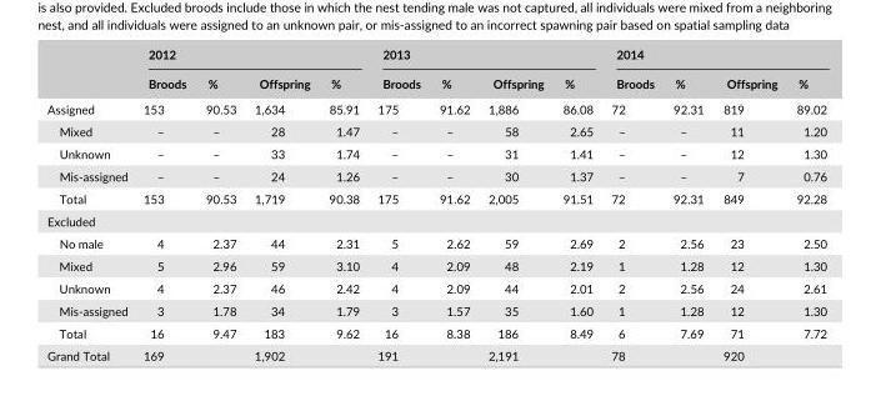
<table><thead><tr><td rowspan="2"></td><td colspan="4">2012</td><td colspan="4">2013</td><td colspan="4">2014</td></tr><tr><td>Broods</td><td>%</td><td>Offspring</td><td>%</td><td>Broods</td><td>%</td><td>Offspring</td><td>%</td><td>Broods</td><td>%</td><td>Offspring</td><td>%</td></tr></thead><tbody><tr><td>Assigned</td><td>153</td><td>90.53</td><td>1,634</td><td>85.91</td><td>175</td><td>91.62</td><td>1,886</td><td>86.08</td><td>72</td><td>92.31</td><td>819</td><td>89.02</td></tr><tr><td>Mixed</td><td>–</td><td>–</td><td>28</td><td>1.47</td><td>–</td><td>–</td><td>58</td><td>2.65</td><td>–</td><td>–</td><td>11</td><td>1.20</td></tr><tr><td>Unknown</td><td>–</td><td>–</td><td>33</td><td>1.74</td><td>–</td><td>–</td><td>31</td><td>1.41</td><td>–</td><td>–</td><td>12</td><td>1.30</td></tr><tr><td>Mis- assigned</td><td>–</td><td>–</td><td>24</td><td>1.26</td><td>–</td><td>–</td><td>30</td><td>1.37</td><td>–</td><td>–</td><td>7</td><td>0.76</td></tr><tr><td>Total</td><td>153</td><td>90.53</td><td>1,719</td><td>90.38</td><td>175</td><td>91.62</td><td>2,005</td><td>91.51</td><td>72</td><td>92.31</td><td>849</td><td>92.28</td></tr><tr><td colspan="13">Excluded</td></tr><tr><td>No male</td><td>4</td><td>2.37</td><td>44</td><td>2.31</td><td>5</td><td>2.62</td><td>59</td><td>2.69</td><td>2</td><td>2.56</td><td>23</td><td>2.50</td></tr><tr><td>Mixed</td><td>5</td><td>2.96</td><td>59</td><td>3.10</td><td>4</td><td>2.09</td><td>48</td><td>2.19</td><td>1</td><td>1.28</td><td>12</td><td>1.30</td></tr><tr><td>Unknown</td><td>4</td><td>2.37</td><td>46</td><td>2.42</td><td>4</td><td>2.09</td><td>44</td><td>2.01</td><td>2</td><td>2.56</td><td>24</td><td>2.61</td></tr><tr><td>Mis- assigned</td><td>3</td><td>1.78</td><td>34</td><td>1.79</td><td>3</td><td>1.57</td><td>35</td><td>1.60</td><td>1</td><td>1.28</td><td>12</td><td>1.30</td></tr><tr><td>Total</td><td>16</td><td>9.47</td><td>183</td><td>9.62</td><td>16</td><td>8.38</td><td>186</td><td>8.49</td><td>6</td><td>7.69</td><td>71</td><td>7.72</td></tr><tr><td>Grand Total</td><td>169</td><td></td><td>1,902</td><td></td><td>191</td><td></td><td>2,191</td><td></td><td>78</td><td></td><td>920</td><td></td></tr></tbody></table>